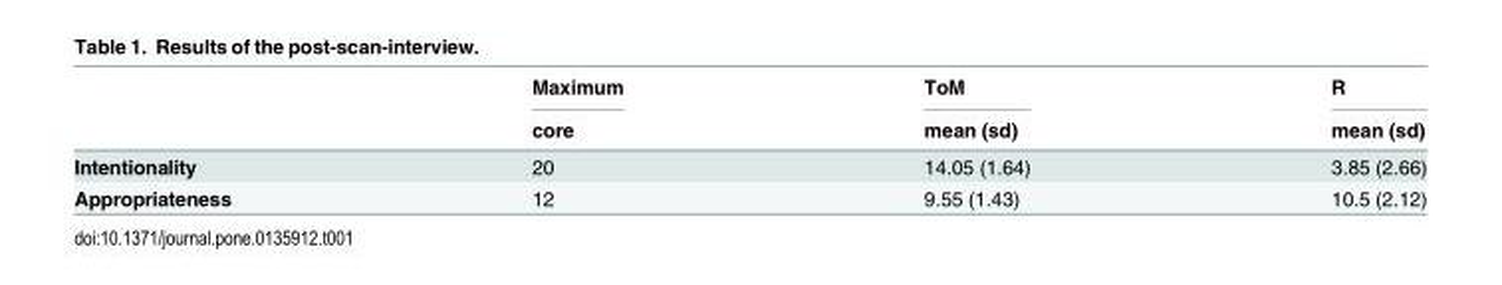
<table><thead><tr><td rowspan="2"></td><td rowspan="2">Maximum core</td><td rowspan="2">ToM mean (sd)</td><td rowspan="2">R mean (sd)</td></tr><tr></tr></thead><tbody><tr><td>Intentionality</td><td>20</td><td>14.05 (1.64)</td><td>3.85 (2.66)</td></tr><tr><td>Appropriateness</td><td>12</td><td>9.55 (1.43)</td><td>10.5 (2.12)</td></tr></tbody></table>